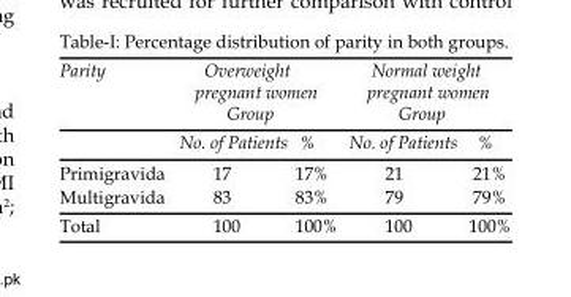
<table><thead><tr><td rowspan="2">Parity</td><td colspan="2">Overweight pregnant women Group</td><td colspan="2">Normal weight pregnant women Group</td></tr><tr><td>No. of Patients</td><td>%</td><td>No. of Patients</td><td>%</td></tr></thead><tbody><tr><td>Primigravida</td><td>17</td><td>17%</td><td>21</td><td>21%</td></tr><tr><td>Multigravida</td><td>83</td><td>83%</td><td>79</td><td>79%</td></tr><tr><td>Total</td><td>100</td><td>100%</td><td>100</td><td>100%</td></tr></tbody></table>